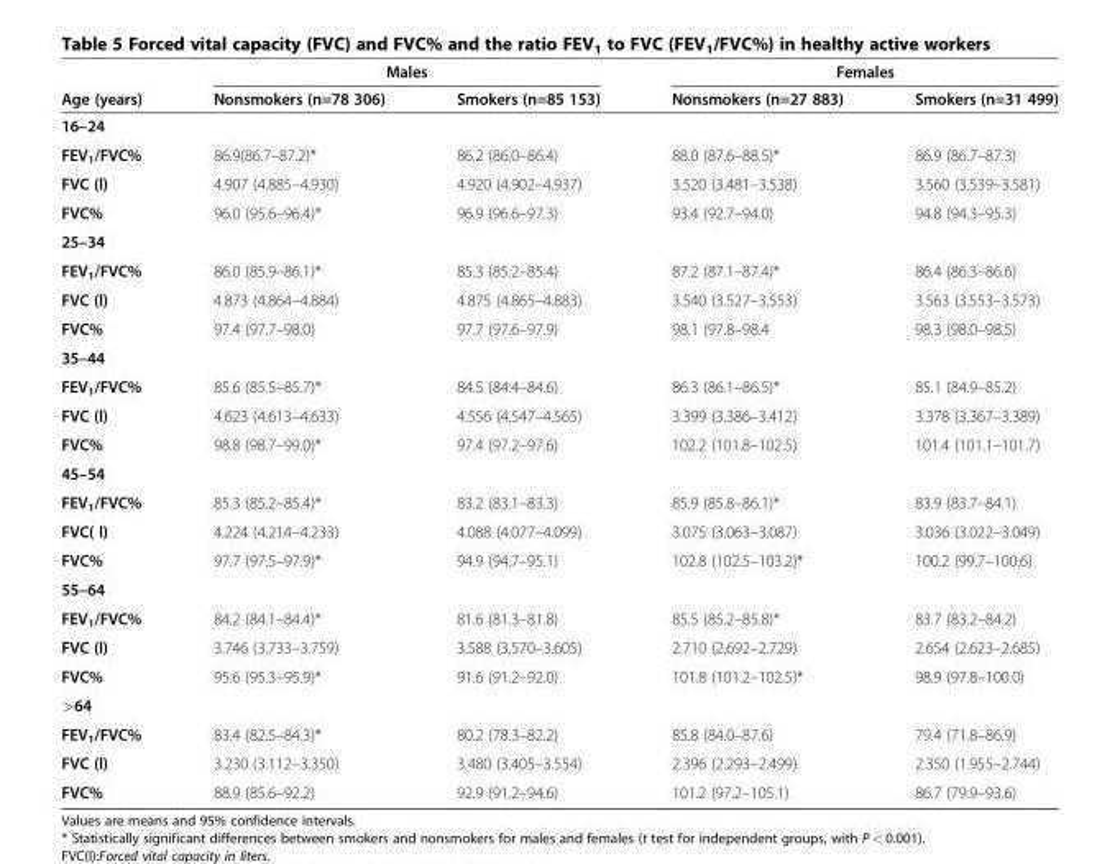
<table><thead><tr><td rowspan="2">Age (years)</td><td colspan="2">Males</td><td colspan="2">Females</td></tr><tr><td>Nonsmokers (n=78 306)</td><td>Smokers (n=85 153)</td><td>Nonsmokers (n=27 883)</td><td>Smokers (n=31 499)</td></tr></thead><tbody><tr><td colspan="5">16–24</td></tr><tr><td>FEV<sub>1</sub>/FVC%</td><td>86.9(86.7–87.2)*</td><td>86.2 (86.0–86.4)</td><td>88.0 (87.6–88.5)*</td><td>86.9 (86.7–87.3)</td></tr><tr><td>FVC (l)</td><td>4.907 (4.885–4.930)</td><td>4.920 (4.902–4.937)</td><td>3.520 (3.481–3.538)</td><td>3.560 (3.539–3.581)</td></tr><tr><td>FVC%</td><td>96.0 (95.6–96.4)*</td><td>96.9 (96.6–97.3)</td><td>93.4 (92.7–94.0)</td><td>94.8 (94.3–95.3)</td></tr><tr><td colspan="5">25–34</td></tr><tr><td>FEV<sub>1</sub>/FVC%</td><td>86.0 (85.9–86.1)*</td><td>85.3 (85.2–85.4)</td><td>87.2 (87.1–87.4)*</td><td>86.4 (86.3–86.6)</td></tr><tr><td>FVC (l)</td><td>4.873 (4.864–4.884)</td><td>4.875 (4.865–4.883)</td><td>3.540 (3.527–3.553)</td><td>3.563 (3.553–3.573)</td></tr><tr><td>FVC%</td><td>97.4 (97.7–98.0)</td><td>97.7 (97.6–97.9)</td><td>98.1 (97.8–98.4</td><td>98.3 (98.0–98.5)</td></tr><tr><td colspan="5">35–44</td></tr><tr><td>FEV<sub>1</sub>/FVC%</td><td>85.6 (85.5–85.7)*</td><td>84.5 (84.4–84.6)</td><td>86.3 (86.1–86.5)*</td><td>85.1 (84.9–85.2)</td></tr><tr><td>FVC (l)</td><td>4.623 (4.613–4.633)</td><td>4.556 (4.547–4.565)</td><td>3.399 (3.386–3.412)</td><td>3.378 (3.367–3.389)</td></tr><tr><td>FVC%</td><td>98.8 (98.7–99.0)*</td><td>97.4 (97.2–97.6)</td><td>102.2 (101.8–102.5)</td><td>101.4 (101.1–101.7)</td></tr><tr><td colspan="5">45–54</td></tr><tr><td>FEV<sub>1</sub>/FVC%</td><td>85.3 (85.2–85.4)*</td><td>83.2 (83.1–83.3)</td><td>85.9 (85.8–86.1)*</td><td>83.9 (83.7–84.1)</td></tr><tr><td>FVC( l)</td><td>4.224 (4.214–4.233)</td><td>4.088 (4.077–4.099)</td><td>3.075 (3.063–3.087)</td><td>3.036 (3.022–3.049)</td></tr><tr><td>FVC%</td><td>97.7 (97.5–97.9)*</td><td>94.9 (94.7–95.1)</td><td>102.8 (102.5–103.2)*</td><td>100.2 (99.7–100.6)</td></tr><tr><td colspan="5">55–64</td></tr><tr><td>FEV<sub>1</sub>/FVC%</td><td>84.2 (84.1–84.4)*</td><td>81.6 (81.3–81.8)</td><td>85.5 (85.2–85.8)*</td><td>83.7 (83.2–84.2)</td></tr><tr><td>FVC (l)</td><td>3.746 (3.733–3.759)</td><td>3.588 (3.570–3.605)</td><td>2.710 (2.692–2.729)</td><td>2.654 (2.623–2.685)</td></tr><tr><td>FVC%</td><td>95.6 (95.3–95.9)*</td><td>91.6 (91.2–92.0)</td><td>101.8 (101.2–102.5)*</td><td>98.9 (97.8–100.0)</td></tr><tr><td colspan="5">&gt;64</td></tr><tr><td>FEV<sub>1</sub>/FVC%</td><td>83.4 (82.5–84.3)*</td><td>80.2 (78.3–82.2)</td><td>85.8 (84.0–87.6)</td><td>79.4 (71.8–86.9)</td></tr><tr><td>FVC (l)</td><td>3.230 (3.112–3.350)</td><td>3.480 (3.405–3.554)</td><td>2.396 (2.293–2.499)</td><td>2.350 (1.955–2.744)</td></tr><tr><td>FVC%</td><td>88.9 (85.6–92.2)</td><td>92.9 (91.2–94.6)</td><td>101.2 (97.2–105.1)</td><td>86.7 (79.9–93.6)</td></tr></tbody></table>